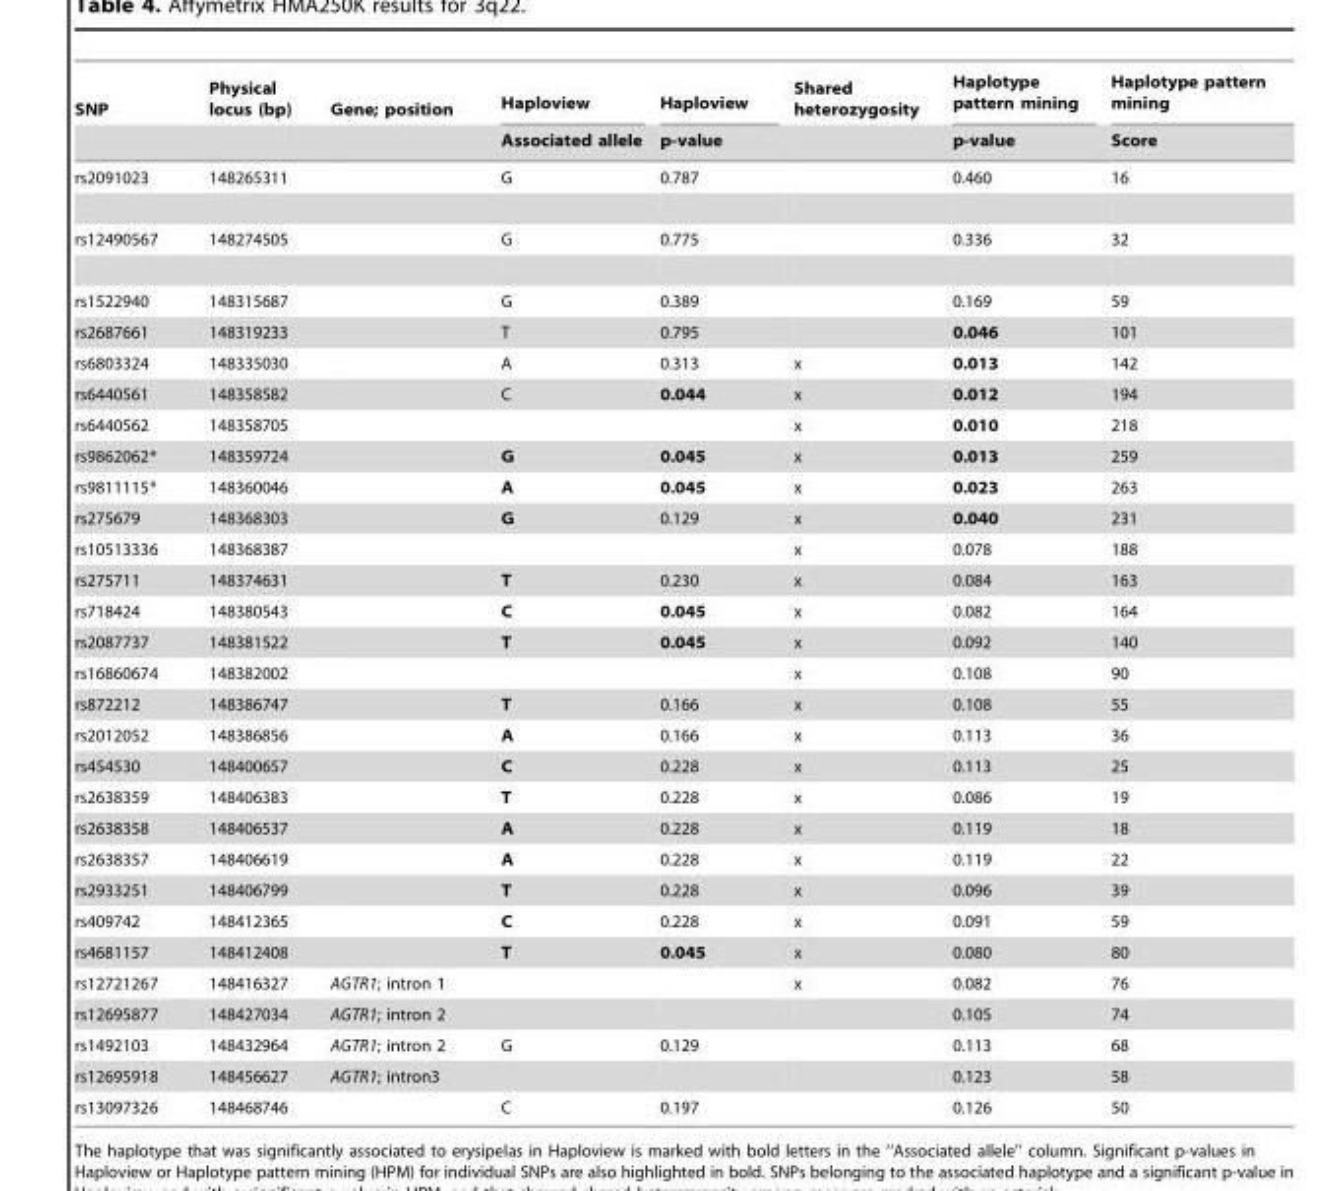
<table><thead><tr><td rowspan="2">SNP</td><td rowspan="2">Physical locus (bp)</td><td rowspan="2">Gene; position</td><td rowspan="2">Haploview Associated allele</td><td rowspan="2">Haploview p-value</td><td rowspan="2">Shared heterozygosity</td><td rowspan="2">Haplotype pattern mining p-value</td><td rowspan="2">Haplotype pattern mining Score</td></tr><tr></tr></thead><tbody><tr><td>rs2091023</td><td>148265311</td><td></td><td>G</td><td>0.787</td><td></td><td>0.460</td><td>16</td></tr><tr><td>rs12490567</td><td>148274505</td><td></td><td>G</td><td>0.775</td><td></td><td>0.336</td><td>32</td></tr><tr><td>rs1522940</td><td>148315687</td><td></td><td>G</td><td>0.389</td><td></td><td>0.169</td><td>59</td></tr><tr><td>rs2687661</td><td>148319233</td><td></td><td>T</td><td>0.795</td><td></td><td>0.046</td><td>101</td></tr><tr><td>rs6803324</td><td>148335030</td><td></td><td>A</td><td>0.313</td><td>x</td><td>0.013</td><td>142</td></tr><tr><td>rs6440561</td><td>148358582</td><td></td><td>C</td><td>0.044</td><td>x</td><td>0.012</td><td>194</td></tr><tr><td>rs6440562</td><td>148358705</td><td></td><td></td><td></td><td>x</td><td>0.010</td><td>218</td></tr><tr><td>rs9862062*</td><td>148359724</td><td></td><td>G</td><td>0.045</td><td>x</td><td>0.013</td><td>259</td></tr><tr><td>rs9811115*</td><td>148360046</td><td></td><td>A</td><td>0.045</td><td>x</td><td>0.023</td><td>263</td></tr><tr><td>rs275679</td><td>148368303</td><td></td><td>G</td><td>0.129</td><td>x</td><td>0.040</td><td>231</td></tr><tr><td>rs10513336</td><td>148368387</td><td></td><td></td><td></td><td>x</td><td>0.078</td><td>188</td></tr><tr><td>rs275711</td><td>148374631</td><td></td><td>T</td><td>0.230</td><td>x</td><td>0.084</td><td>163</td></tr><tr><td>rs718424</td><td>148380543</td><td></td><td>C</td><td>0.045</td><td>x</td><td>0.082</td><td>164</td></tr><tr><td>rs2087737</td><td>148381522</td><td></td><td>T</td><td>0.045</td><td>x</td><td>0.092</td><td>140</td></tr><tr><td>rs16860674</td><td>148382002</td><td></td><td></td><td></td><td>x</td><td>0.108</td><td>90</td></tr><tr><td>rs872212</td><td>148386747</td><td></td><td>T</td><td>0.166</td><td>x</td><td>0.108</td><td>55</td></tr><tr><td>rs2012052</td><td>148386856</td><td></td><td>A</td><td>0.166</td><td>x</td><td>0.113</td><td>36</td></tr><tr><td>rs454530</td><td>148400657</td><td></td><td>C</td><td>0.228</td><td>x</td><td>0.113</td><td>25</td></tr><tr><td>rs2638359</td><td>148406383</td><td></td><td>T</td><td>0.228</td><td>x</td><td>0.086</td><td>19</td></tr><tr><td>rs2638358</td><td>148406537</td><td></td><td>A</td><td>0.228</td><td>x</td><td>0.119</td><td>18</td></tr><tr><td>rs2638357</td><td>148406619</td><td></td><td>A</td><td>0.228</td><td>x</td><td>0.119</td><td>22</td></tr><tr><td>rs2933251</td><td>148406799</td><td></td><td>T</td><td>0.228</td><td>x</td><td>0.096</td><td>39</td></tr><tr><td>rs409742</td><td>148412365</td><td></td><td>C</td><td>0.228</td><td>x</td><td>0.091</td><td>59</td></tr><tr><td>rs4681157</td><td>148412408</td><td></td><td>T</td><td>0.045</td><td>x</td><td>0.080</td><td>80</td></tr><tr><td>rs12721267</td><td>148416327</td><td>AGTR1; intron 1</td><td></td><td></td><td>x</td><td>0.082</td><td>76</td></tr><tr><td>rs12695877</td><td>148427034</td><td>AGTR1; intron 2</td><td></td><td></td><td></td><td>0.105</td><td>74</td></tr><tr><td>rs1492103</td><td>148432964</td><td>AGTR1; intron 2</td><td>G</td><td>0.129</td><td></td><td>0.113</td><td>68</td></tr><tr><td>rs12695918</td><td>148456627</td><td>AGTR1; intron3</td><td></td><td></td><td></td><td>0.123</td><td>58</td></tr><tr><td>rs13097326</td><td>148468746</td><td></td><td>C</td><td>0.197</td><td></td><td>0.126</td><td>50</td></tr></tbody></table>